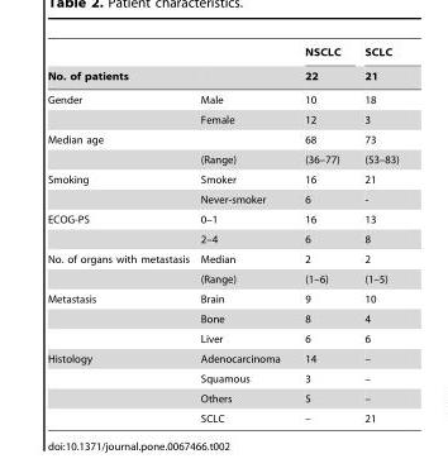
<table><thead><tr><td rowspan="2">No. of patients</td><td rowspan="2"></td><td rowspan="2">NSCLC 22</td><td rowspan="2">SCLC 21</td></tr><tr></tr></thead><tbody><tr><td rowspan="2">Gender</td><td>Male</td><td>10</td><td>18</td></tr><tr><td>Female</td><td>12</td><td>3</td></tr><tr><td rowspan="2">Median age</td><td></td><td>68</td><td>73</td></tr><tr><td>(Range)</td><td>(36–77)</td><td>(53–83)</td></tr><tr><td rowspan="2">Smoking</td><td>Smoker</td><td>16</td><td>21</td></tr><tr><td>Never-smoker</td><td>6</td><td>-</td></tr><tr><td rowspan="2">ECOG-PS</td><td>0–1</td><td>16</td><td>13</td></tr><tr><td>2–4</td><td>6</td><td>8</td></tr><tr><td rowspan="2">No. of organs with metastasis</td><td>Median</td><td>2</td><td>2</td></tr><tr><td>(Range)</td><td>(1–6)</td><td>(1–5)</td></tr><tr><td rowspan="3">Metastasis</td><td>Brain</td><td>9</td><td>10</td></tr><tr><td>Bone</td><td>8</td><td>4</td></tr><tr><td>Liver</td><td>6</td><td>6</td></tr><tr><td rowspan="4">Histology</td><td>Adenocarcinoma</td><td>14</td><td>–</td></tr><tr><td>Squamous</td><td>3</td><td>–</td></tr><tr><td>Others</td><td>5</td><td>–</td></tr><tr><td>SCLC</td><td>–</td><td>21</td></tr></tbody></table>